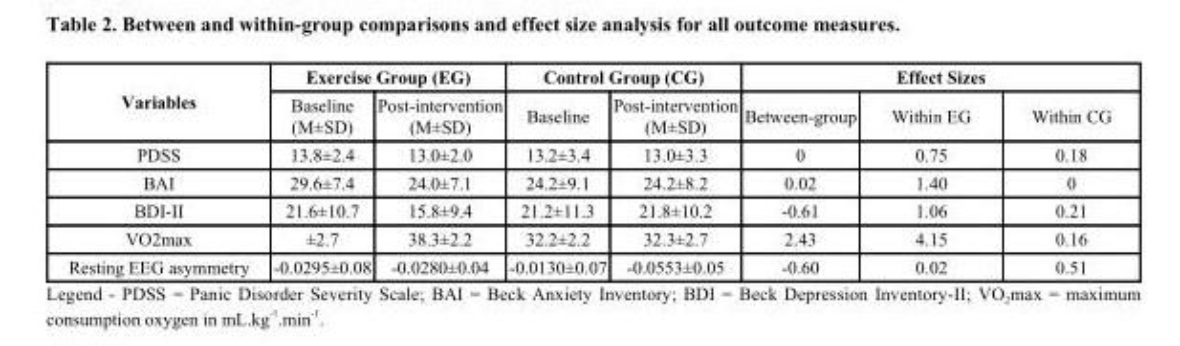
<table><thead><tr><td rowspan="2">Variables</td><td colspan="2">Exercise Group (EG)</td><td colspan="2">Control Group (CG)</td><td colspan="3">Effect Sizes</td></tr><tr><td>Baseline (M±SD)</td><td>Post-intervention (M±SD)</td><td>Baseline</td><td>Post-intervention (M±SD)</td><td>Between-group</td><td>Within EG</td><td>Within CG</td></tr></thead><tbody><tr><td>PDSS</td><td>13.8±2.4</td><td>13.0±2.0</td><td>13.2±3.4</td><td>13.0±3.3</td><td>0</td><td>0.75</td><td>0.18</td></tr><tr><td>BAI</td><td>29.6±7.4</td><td>24.0±7.1</td><td>24.2±9.1</td><td>24.2±8.2</td><td>0.02</td><td>1.40</td><td>0</td></tr><tr><td>BDI-II</td><td>21.6±10.7</td><td>15.8±9.4</td><td>21.2±11.3</td><td>21.8±10.2</td><td>-0.61</td><td>1.06</td><td>0.21</td></tr><tr><td>VO2max</td><td>±2.7</td><td>38.3±2.2</td><td>32.2±2.2</td><td>32.3±2.7</td><td>2.43</td><td>4.15</td><td>0.16</td></tr><tr><td>Resting EEG asymmetry</td><td>-0.0295±0.08</td><td>-0.0280±0.04</td><td>-0.0130±0.07</td><td>-0.0553±0.05</td><td>-0.60</td><td>0.02</td><td>0.51</td></tr></tbody></table>